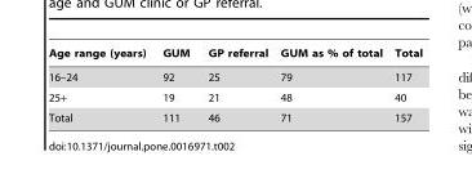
<table><thead><tr><td>Age range (years)</td><td>GUM</td><td>GP referral</td><td>GUM as % of total</td><td>Total</td></tr></thead><tbody><tr><td>16–24</td><td>92</td><td>25</td><td>79</td><td>117</td></tr><tr><td>25+</td><td>19</td><td>21</td><td>48</td><td>40</td></tr><tr><td>Total</td><td>111</td><td>46</td><td>71</td><td>157</td></tr></tbody></table>